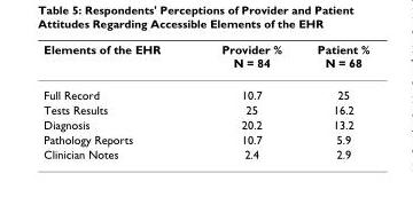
<table><thead><tr><td>Elements of the EHR</td><td>Provider % N = 84</td><td>Patient % N = 68</td></tr></thead><tbody><tr><td>Full Record</td><td>10.7</td><td>25</td></tr><tr><td>Tests Results</td><td>25</td><td>16.2</td></tr><tr><td>Diagnosis</td><td>20.2</td><td>13.2</td></tr><tr><td>Pathology Reports</td><td>10.7</td><td>5.9</td></tr><tr><td>Clinician Notes</td><td>2.4</td><td>2.9</td></tr></tbody></table>